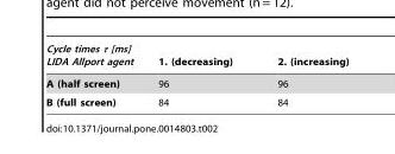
<table><thead><tr><td>Cycle times τ [ms] LIDA Allport agent</td><td>1. (decreasing)</td><td>2. (increasing)</td></tr></thead><tbody><tr><td>A (half screen)</td><td>96</td><td>96</td></tr><tr><td>B (full screen)</td><td>84</td><td>84</td></tr></tbody></table>